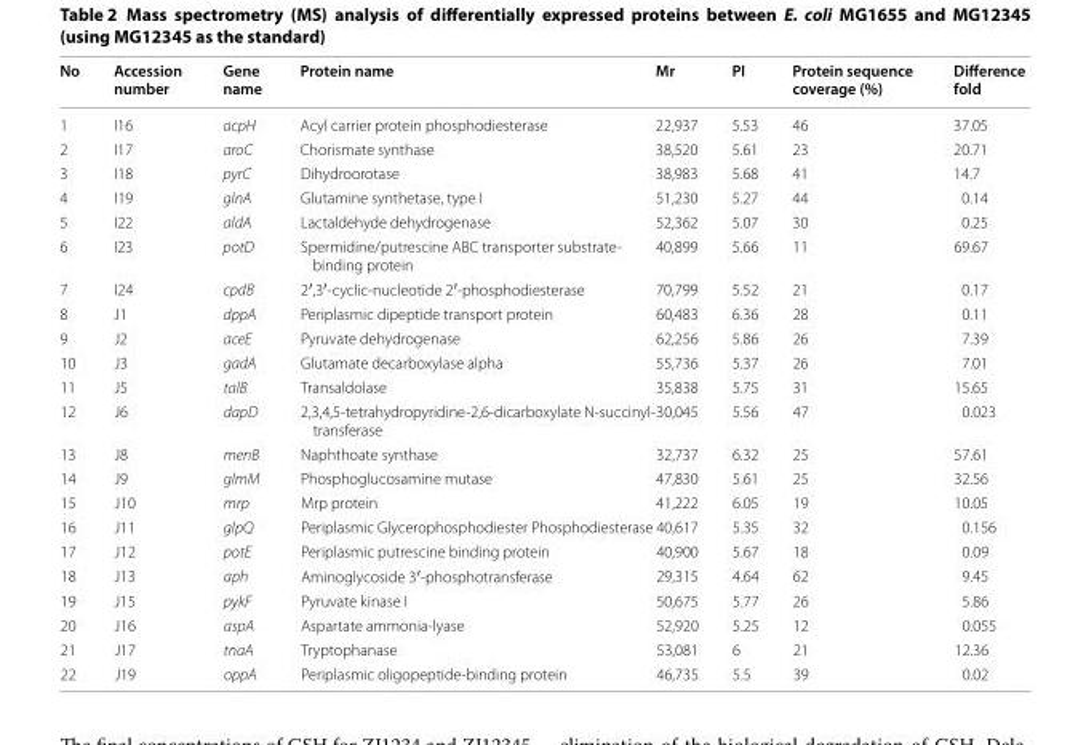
<table><thead><tr><td>No</td><td>Accession number</td><td>Gene name</td><td>Protein name</td><td>Mr</td><td>PI</td><td>Protein sequence coverage (%)</td><td>Difference fold</td></tr></thead><tbody><tr><td>1</td><td>I16</td><td>acpH</td><td>Acyl carrier protein phosphodiesterase</td><td>22,937</td><td>5.53</td><td>46</td><td>37.05</td></tr><tr><td>2</td><td>I17</td><td>aroC</td><td>Chorismate synthase</td><td>38,520</td><td>5.61</td><td>23</td><td>20.71</td></tr><tr><td>3</td><td>I18</td><td>pyrC</td><td>Dihydroorotase</td><td>38,983</td><td>5.68</td><td>41</td><td>14.7</td></tr><tr><td>4</td><td>I19</td><td>glnA</td><td>Glutamine synthetase, type I</td><td>51,230</td><td>5.27</td><td>44</td><td>0.14</td></tr><tr><td>5</td><td>I22</td><td>aldA</td><td>Lactaldehyde dehydrogenase</td><td>52,362</td><td>5.07</td><td>30</td><td>0.25</td></tr><tr><td>6</td><td>I23</td><td>potD</td><td>Spermidine/putrescine ABC transporter substrate- binding protein</td><td>40,899</td><td>5.66</td><td>11</td><td>69.67</td></tr><tr><td>7</td><td>I24</td><td>cpdB</td><td>2′,3′-cyclic-nucleotide 2′-phosphodiesterase</td><td>70,799</td><td>5.52</td><td>21</td><td>0.17</td></tr><tr><td>8</td><td>J1</td><td>dppA</td><td>Periplasmic dipeptide transport protein</td><td>60,483</td><td>6.36</td><td>28</td><td>0.11</td></tr><tr><td>9</td><td>J2</td><td>aceE</td><td>Pyruvate dehydrogenase</td><td>62,256</td><td>5.86</td><td>26</td><td>7.39</td></tr><tr><td>10</td><td>J3</td><td>gadA</td><td>Glutamate decarboxylase alpha</td><td>55,736</td><td>5.37</td><td>26</td><td>7.01</td></tr><tr><td>11</td><td>J5</td><td>talB</td><td>Transaldolase</td><td>35,838</td><td>5.75</td><td>31</td><td>15.65</td></tr><tr><td>12</td><td>J6</td><td>dapD</td><td>2,3,4,5-tetrahydropyridine-2,6-dicarboxylate N-succinyl- transferase</td><td>30,045</td><td>5.56</td><td>47</td><td>0.023</td></tr><tr><td>13</td><td>J8</td><td>menB</td><td>Naphthoate synthase</td><td>32,737</td><td>6.32</td><td>25</td><td>57.61</td></tr><tr><td>14</td><td>J9</td><td>glmM</td><td>Phosphoglucosamine mutase</td><td>47,830</td><td>5.61</td><td>25</td><td>32.56</td></tr><tr><td>15</td><td>J10</td><td>mrp</td><td>Mrp protein</td><td>41,222</td><td>6.05</td><td>19</td><td>10.05</td></tr><tr><td>16</td><td>J11</td><td>glpQ</td><td>Periplasmic Glycerophosphodiester Phosphodiesterase</td><td>40,617</td><td>5.35</td><td>32</td><td>0.156</td></tr><tr><td>17</td><td>J12</td><td>potE</td><td>Periplasmic putrescine binding protein</td><td>40,900</td><td>5.67</td><td>18</td><td>0.09</td></tr><tr><td>18</td><td>J13</td><td>aph</td><td>Aminoglycoside 3′-phosphotransferase</td><td>29,315</td><td>4.64</td><td>62</td><td>9.45</td></tr><tr><td>19</td><td>J15</td><td>pykF</td><td>Pyruvate kinase I</td><td>50,675</td><td>5.77</td><td>26</td><td>5.86</td></tr><tr><td>20</td><td>J16</td><td>aspA</td><td>Aspartate ammonia-lyase</td><td>52,920</td><td>5.25</td><td>12</td><td>0.055</td></tr><tr><td>21</td><td>J17</td><td>tnaA</td><td>Tryptophanase</td><td>53,081</td><td>6</td><td>21</td><td>12.36</td></tr><tr><td>22</td><td>J19</td><td>oppA</td><td>Periplasmic oligopeptide-binding protein</td><td>46,735</td><td>5.5</td><td>39</td><td>0.02</td></tr></tbody></table>